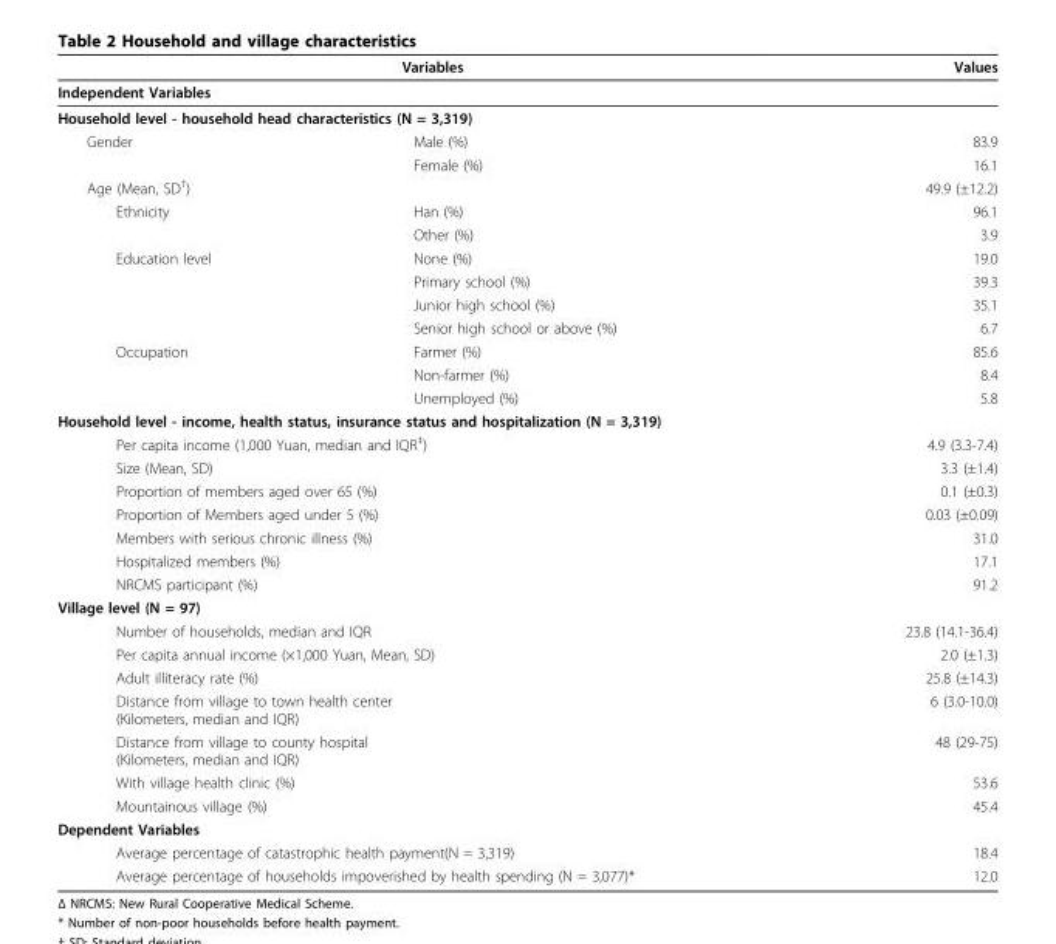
<table><thead><tr><td colspan="2">Variables</td><td rowspan="2">Values</td></tr><tr><td>Independent Variables</td><td></td></tr></thead><tbody><tr><td colspan="3">Household level - household head characteristics (N = 3,319)</td></tr><tr><td rowspan="2">Gender</td><td>Male (%)</td><td>83.9</td></tr><tr><td>Female (%)</td><td>16.1</td></tr><tr><td>Age (Mean, SD<sup>†</sup>)</td><td></td><td>49.9 (±12.2)</td></tr><tr><td rowspan="2">Ethnicity</td><td>Han (%)</td><td>96.1</td></tr><tr><td>Other (%)</td><td>3.9</td></tr><tr><td rowspan="4">Education level</td><td>None (%)</td><td>19.0</td></tr><tr><td>Primary school (%)</td><td>39.3</td></tr><tr><td>Junior high school (%)</td><td>35.1</td></tr><tr><td>Senior high school or above (%)</td><td>6.7</td></tr><tr><td rowspan="3">Occupation</td><td>Farmer (%)</td><td>85.6</td></tr><tr><td>Non-farmer (%)</td><td>8.4</td></tr><tr><td>Unemployed (%)</td><td>5.8</td></tr><tr><td colspan="3">Household level - income, health status, insurance status and hospitalization (N = 3,319)</td></tr><tr><td colspan="2">Per capita income (1,000 Yuan, median and IQR<sup>‡</sup>)</td><td>4.9 (3.3-7.4)</td></tr><tr><td colspan="2">Size (Mean, SD)</td><td>3.3 (±1.4)</td></tr><tr><td colspan="2">Proportion of members aged over 65 (%)</td><td>0.1 (±0.3)</td></tr><tr><td colspan="2">Proportion of Members aged under 5 (%)</td><td>0.03 (±0.09)</td></tr><tr><td colspan="2">Members with serious chronic illness (%)</td><td>31.0</td></tr><tr><td colspan="2">Hospitalized members (%)</td><td>17.1</td></tr><tr><td colspan="2">NRCMS participant (%)</td><td>91.2</td></tr><tr><td colspan="3">Village level (N = 97)</td></tr><tr><td colspan="2">Number of households, median and IQR</td><td>23.8 (14.1-36.4)</td></tr><tr><td colspan="2">Per capita annual income (×1,000 Yuan, Mean, SD)</td><td>2.0 (±1.3)</td></tr><tr><td colspan="2">Adult illiteracy rate (%)</td><td>25.8 (±14.3)</td></tr><tr><td colspan="2">Distance from village to town health center (Kilometers, median and IQR)</td><td>6 (3.0-10.0)</td></tr><tr><td colspan="2">Distance from village to county hospital (Kilometers, median and IQR)</td><td>48 (29-75)</td></tr><tr><td colspan="2">With village health clinic (%)</td><td>53.6</td></tr><tr><td colspan="2">Mountainous village (%)</td><td>45.4</td></tr><tr><td colspan="3">Dependent Variables</td></tr><tr><td colspan="2">Average percentage of catastrophic health payment(N = 3,319)</td><td>18.4</td></tr><tr><td colspan="2">Average percentage of households impoverished by health spending (N = 3,077)*</td><td>12.0</td></tr></tbody></table>